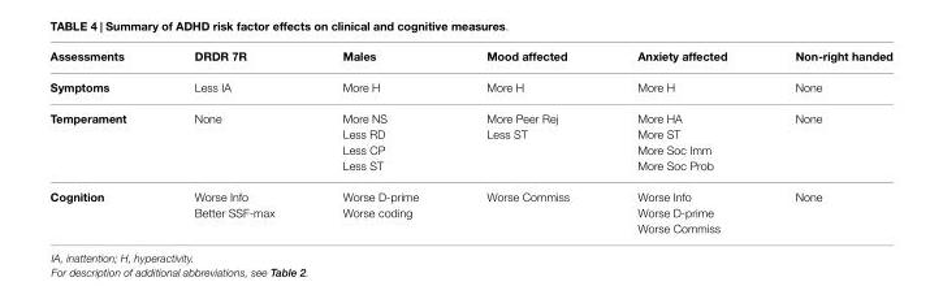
<table><thead><tr><td>Assessments</td><td>DRDR 7R</td><td>Males</td><td>Mood affected</td><td>Anxiety affected</td><td>Non-right handed</td></tr></thead><tbody><tr><td>Symptoms</td><td>Less IA</td><td>More H</td><td>More H</td><td>More H</td><td>None</td></tr><tr><td rowspan="4">Temperament</td><td>None</td><td>More NS</td><td>More Peer Rej</td><td>More HA</td><td>None</td></tr><tr><td></td><td>Less RD</td><td>Less ST</td><td>More ST</td><td></td></tr><tr><td></td><td>Less CP</td><td></td><td>More Soc Imm</td><td></td></tr><tr><td></td><td>Less ST</td><td></td><td>More Soc Prob</td><td></td></tr><tr><td rowspan="3">Cognition</td><td>Worse Info</td><td>Worse D-prime</td><td>Worse Commiss</td><td>Worse Info</td><td>None</td></tr><tr><td>Better SSF-max</td><td>Worse coding</td><td></td><td>Worse D-prime</td><td></td></tr><tr><td></td><td></td><td></td><td>Worse Commiss</td><td></td></tr></tbody></table>